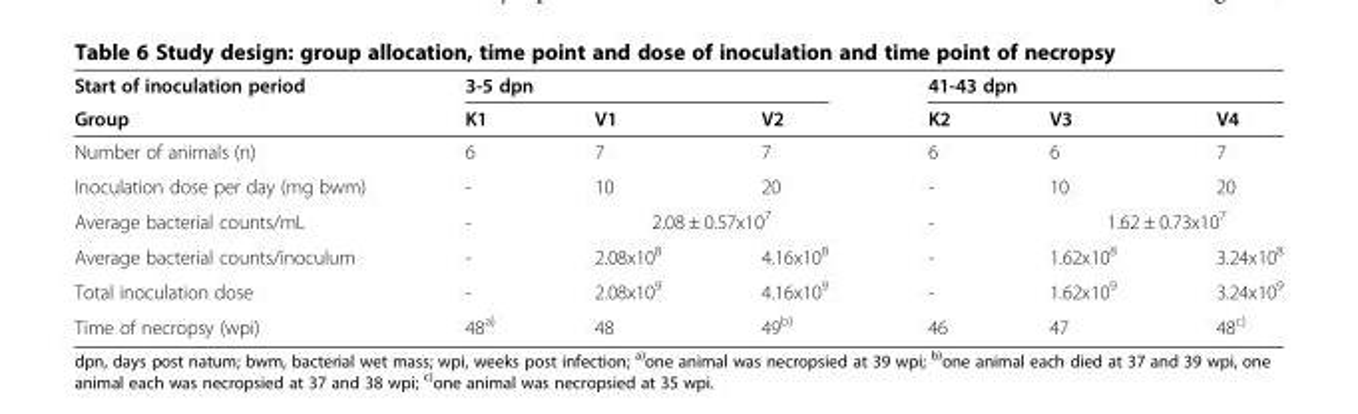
<table><thead><tr><td rowspan="2">Start of inoculation period Group</td><td colspan="3">3-5 dpn</td><td colspan="3">41-43 dpn</td></tr><tr><td>K1</td><td>V1</td><td>V2</td><td>K2</td><td>V3</td><td>V4</td></tr></thead><tbody><tr><td>Number of animals (n)</td><td>6</td><td>7</td><td>7</td><td>6</td><td>6</td><td>7</td></tr><tr><td>Inoculation dose per day (mg bwm)</td><td>-</td><td>10</td><td>20</td><td>-</td><td>10</td><td>20</td></tr><tr><td>Average bacterial counts/mL</td><td>-</td><td colspan="2">2.08 ± 0.57x10<sup>7</sup></td><td>-</td><td colspan="2">1.62 ± 0.73x10<sup>7</sup></td></tr><tr><td>Average bacterial counts/inoculum</td><td>-</td><td>2.08x10<sup>8</sup></td><td>4.16x10<sup>8</sup></td><td>-</td><td>1.62x10<sup>8</sup></td><td>3.24x10<sup>8</sup></td></tr><tr><td>Total inoculation dose</td><td>-</td><td>2.08x10<sup>9</sup></td><td>4.16x10<sup>9</sup></td><td>-</td><td>1.62x10<sup>9</sup></td><td>3.24x10<sup>9</sup></td></tr><tr><td>Time of necropsy (wpi)</td><td>48<sup>a)</sup></td><td>48</td><td>49<sup>b)</sup></td><td>46</td><td>47</td><td>48<sup>c)</sup></td></tr></tbody></table>